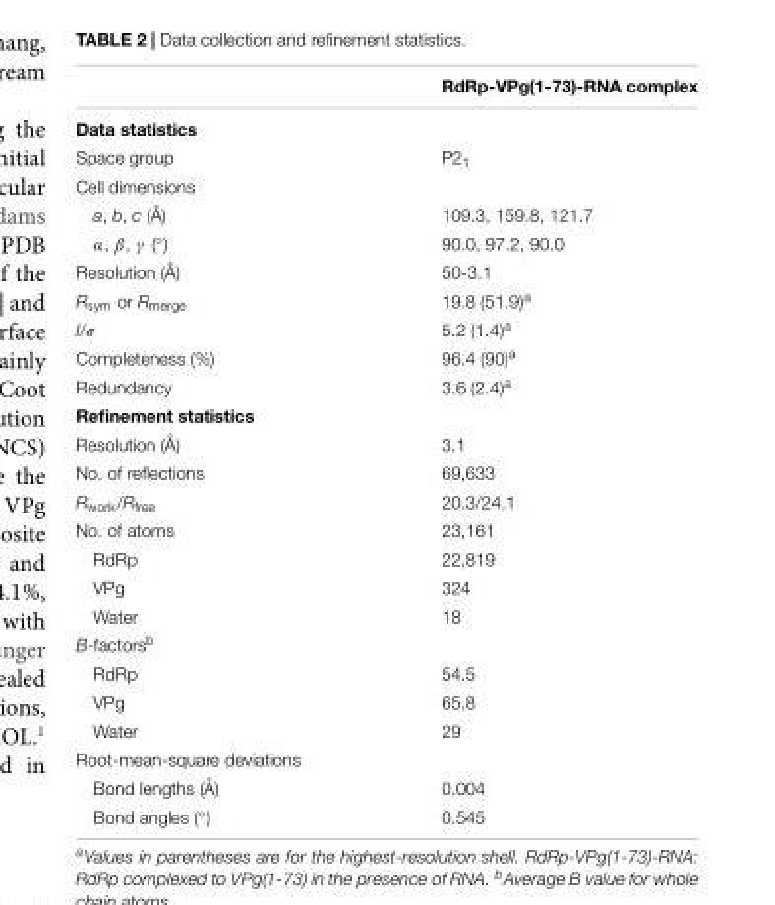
<table><thead><tr><td></td><td>RdRp-VPg(1-73)-RNA complex</td></tr></thead><tbody><tr><td colspan="2">Data statistics</td></tr><tr><td>Space group</td><td>P2<sub>1</sub></td></tr><tr><td colspan="2">Cell dimensions</td></tr><tr><td>a, b, c (Å)</td><td>109.3, 159.8, 121.7</td></tr><tr><td>α, β, γ (◦)</td><td>90.0, 97.2, 90.0</td></tr><tr><td>Resolution (Å)</td><td>50-3.1</td></tr><tr><td>R<sub>sym</sub> or R<sub>merge</sub></td><td>19.8 (51.9)<sup>a</sup></td></tr><tr><td>I/σ</td><td>5.2 (1.4)<sup>a</sup></td></tr><tr><td>Completeness (%)</td><td>96.4 (90)<sup>a</sup></td></tr><tr><td>Redundancy</td><td>3.6 (2.4)<sup>a</sup></td></tr><tr><td colspan="2">Refinement statistics</td></tr><tr><td>Resolution (Å)</td><td>3.1</td></tr><tr><td>No. of reflections</td><td>69,633</td></tr><tr><td>R<sub>work</sub>/R<sub>free</sub></td><td>20.3/24.1</td></tr><tr><td>No. of atoms</td><td>23,161</td></tr><tr><td>RdRp</td><td>22,819</td></tr><tr><td>VPg</td><td>324</td></tr><tr><td>Water</td><td>18</td></tr><tr><td colspan="2">B-factors<sup>b</sup></td></tr><tr><td>RdRp</td><td>54.5</td></tr><tr><td>VPg</td><td>65.8</td></tr><tr><td>Water</td><td>29</td></tr><tr><td colspan="2">Root-mean-square deviations</td></tr><tr><td>Bond lengths (Å)</td><td>0.004</td></tr><tr><td>Bond angles (◦)</td><td>0.545</td></tr></tbody></table>